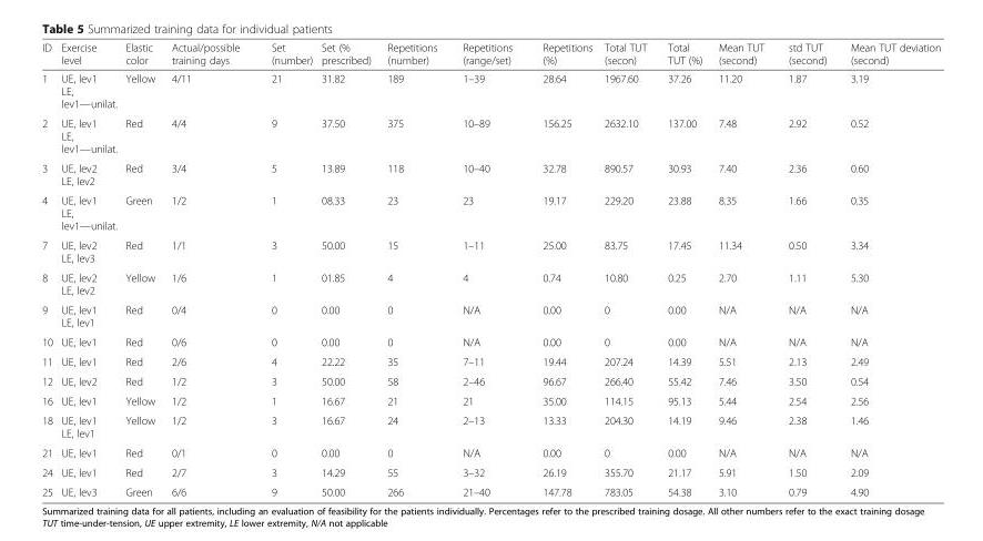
<table><thead><tr><td>ID</td><td>Exercise level</td><td>Elastic color</td><td>Actual/possible training days</td><td>Set (number)</td><td>Set (% prescribed)</td><td>Repetitions (number)</td><td>Repetitions (range/set)</td><td>Repetitions (%)</td><td>Total TUT (secon)</td><td>Total TUT (%)</td><td>Mean TUT (second)</td><td>std TUT (second)</td><td>Mean TUT deviation (second)</td></tr></thead><tbody><tr><td>1</td><td>UE, lev1 LE, lev1—unilat.</td><td>Yellow</td><td>4/11</td><td>21</td><td>31.82</td><td>189</td><td>1–39</td><td>28.64</td><td>1967.60</td><td>37.26</td><td>11.20</td><td>1.87</td><td>3.19</td></tr><tr><td>2</td><td>UE, lev1 LE, lev1—unilat.</td><td>Red</td><td>4/4</td><td>9</td><td>37.50</td><td>375</td><td>10–89</td><td>156.25</td><td>2632.10</td><td>137.00</td><td>7.48</td><td>2.92</td><td>0.52</td></tr><tr><td>3</td><td>UE, lev2 LE, lev2</td><td>Red</td><td>3/4</td><td>5</td><td>13.89</td><td>118</td><td>10–40</td><td>32.78</td><td>890.57</td><td>30.93</td><td>7.40</td><td>2.36</td><td>0.60</td></tr><tr><td>4</td><td>UE, lev1 LE, lev1—unilat.</td><td>Green</td><td>1/2</td><td>1</td><td>08.33</td><td>23</td><td>23</td><td>19.17</td><td>229.20</td><td>23.88</td><td>8.35</td><td>1.66</td><td>0.35</td></tr><tr><td>7</td><td>UE, lev2 LE, lev3</td><td>Red</td><td>1/1</td><td>3</td><td>50.00</td><td>15</td><td>1–11</td><td>25.00</td><td>83.75</td><td>17.45</td><td>11.34</td><td>0.50</td><td>3.34</td></tr><tr><td>8</td><td>UE, lev2 LE, lev2</td><td>Yellow</td><td>1/6</td><td>1</td><td>01.85</td><td>4</td><td>4</td><td>0.74</td><td>10.80</td><td>0.25</td><td>2.70</td><td>1.11</td><td>5.30</td></tr><tr><td>9</td><td>UE, lev1 LE, lev1</td><td>Red</td><td>0/4</td><td>0</td><td>0.00</td><td>0</td><td>N/A</td><td>0.00</td><td>0</td><td>0.00</td><td>N/A</td><td>N/A</td><td>N/A</td></tr><tr><td>10</td><td>UE, lev1</td><td>Red</td><td>0/6</td><td>0</td><td>0.00</td><td>0</td><td>N/A</td><td>0.00</td><td>0</td><td>0.00</td><td>N/A</td><td>N/A</td><td>N/A</td></tr><tr><td>11</td><td>UE, lev1</td><td>Red</td><td>2/6</td><td>4</td><td>22.22</td><td>35</td><td>7–11</td><td>19.44</td><td>207.24</td><td>14.39</td><td>5.51</td><td>2.13</td><td>2.49</td></tr><tr><td>12</td><td>UE, lev2</td><td>Red</td><td>1/2</td><td>3</td><td>50.00</td><td>58</td><td>2–46</td><td>96.67</td><td>266.40</td><td>55.42</td><td>7.46</td><td>3.50</td><td>0.54</td></tr><tr><td>16</td><td>UE, lev1</td><td>Yellow</td><td>1/2</td><td>1</td><td>16.67</td><td>21</td><td>21</td><td>35.00</td><td>114.15</td><td>95.13</td><td>5.44</td><td>2.54</td><td>2.56</td></tr><tr><td>18</td><td>UE, lev1 LE, lev1</td><td>Yellow</td><td>1/2</td><td>3</td><td>16.67</td><td>24</td><td>2–13</td><td>13.33</td><td>204.30</td><td>14.19</td><td>9.46</td><td>2.38</td><td>1.46</td></tr><tr><td>21</td><td>UE, lev1</td><td>Red</td><td>0/1</td><td>0</td><td>0.00</td><td>0</td><td>N/A</td><td>0.00</td><td>0</td><td>0.00</td><td>N/A</td><td>N/A</td><td>N/A</td></tr><tr><td>24</td><td>UE, lev1</td><td>Red</td><td>2/7</td><td>3</td><td>14.29</td><td>55</td><td>3–32</td><td>26.19</td><td>355.70</td><td>21.17</td><td>5.91</td><td>1.50</td><td>2.09</td></tr><tr><td>25</td><td>UE, lev3</td><td>Green</td><td>6/6</td><td>9</td><td>50.00</td><td>266</td><td>21–40</td><td>147.78</td><td>783.05</td><td>54.38</td><td>3.10</td><td>0.79</td><td>4.90</td></tr></tbody></table>